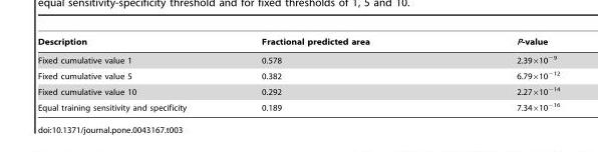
<table><thead><tr><td>Description</td><td>Fractional predicted area</td><td>P-value</td></tr></thead><tbody><tr><td>Fixed cumulative value 1</td><td>0.578</td><td>2.39×10<sup>−9</sup></td></tr><tr><td>Fixed cumulative value 5</td><td>0.382</td><td>6.79×10<sup>−12</sup></td></tr><tr><td>Fixed cumulative value 10</td><td>0.292</td><td>2.27×10<sup>−14</sup></td></tr><tr><td>Equal training sensitivity and specificity</td><td>0.189</td><td>7.34×10<sup>−16</sup></td></tr></tbody></table>